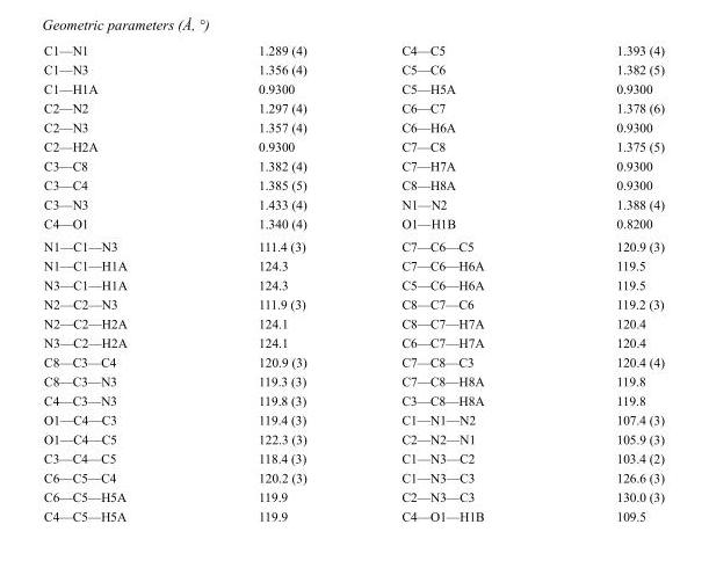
<table><tbody><tr><td>C1—N1</td><td>1.289 (4)</td><td>C4—C5</td><td>1.393 (4)</td></tr><tr><td>C1—N3</td><td>1.356 (4)</td><td>C5—C6</td><td>1.382 (5)</td></tr><tr><td>C1—H1A</td><td>0.9300</td><td>C5—H5A</td><td>0.9300</td></tr><tr><td>C2—N2</td><td>1.297 (4)</td><td>C6—C7</td><td>1.378 (6)</td></tr><tr><td>C2—N3</td><td>1.357 (4)</td><td>C6—H6A</td><td>0.9300</td></tr><tr><td>C2—H2A</td><td>0.9300</td><td>C7—C8</td><td>1.375 (5)</td></tr><tr><td>C3—C8</td><td>1.382 (4)</td><td>C7—H7A</td><td>0.9300</td></tr><tr><td>C3—C4</td><td>1.385 (5)</td><td>C8—H8A</td><td>0.9300</td></tr><tr><td>C3—N3</td><td>1.433 (4)</td><td>N1—N2</td><td>1.388 (4)</td></tr><tr><td>C4—O1</td><td>1.340 (4)</td><td>O1—H1B</td><td>0.8200</td></tr><tr><td>N1—C1—N3</td><td>111.4 (3)</td><td>C7—C6—C5</td><td>120.9 (3)</td></tr><tr><td>N1—C1—H1A</td><td>124.3</td><td>C7—C6—H6A</td><td>119.5</td></tr><tr><td>N3—C1—H1A</td><td>124.3</td><td>C5—C6—H6A</td><td>119.5</td></tr><tr><td>N2—C2—N3</td><td>111.9 (3)</td><td>C8—C7—C6</td><td>119.2 (3)</td></tr><tr><td>N2—C2—H2A</td><td>124.1</td><td>C8—C7—H7A</td><td>120.4</td></tr><tr><td>N3—C2—H2A</td><td>124.1</td><td>C6—C7—H7A</td><td>120.4</td></tr><tr><td>C8—C3—C4</td><td>120.9 (3)</td><td>C7—C8—C3</td><td>120.4 (4)</td></tr><tr><td>C8—C3—N3</td><td>119.3 (3)</td><td>C7—C8—H8A</td><td>119.8</td></tr><tr><td>C4—C3—N3</td><td>119.8 (3)</td><td>C3—C8—H8A</td><td>119.8</td></tr><tr><td>O1—C4—C3</td><td>119.4 (3)</td><td>C1—N1—N2</td><td>107.4 (3)</td></tr><tr><td>O1—C4—C5</td><td>122.3 (3)</td><td>C2—N2—N1</td><td>105.9 (3)</td></tr><tr><td>C3—C4—C5</td><td>118.4 (3)</td><td>C1—N3—C2</td><td>103.4 (2)</td></tr><tr><td>C6—C5—C4</td><td>120.2 (3)</td><td>C1—N3—C3</td><td>126.6 (3)</td></tr><tr><td>C6—C5—H5A</td><td>119.9</td><td>C2—N3—C3</td><td>130.0 (3)</td></tr><tr><td>C4—C5—H5A</td><td>119.9</td><td>C4—O1—H1B</td><td>109.5</td></tr></tbody></table>